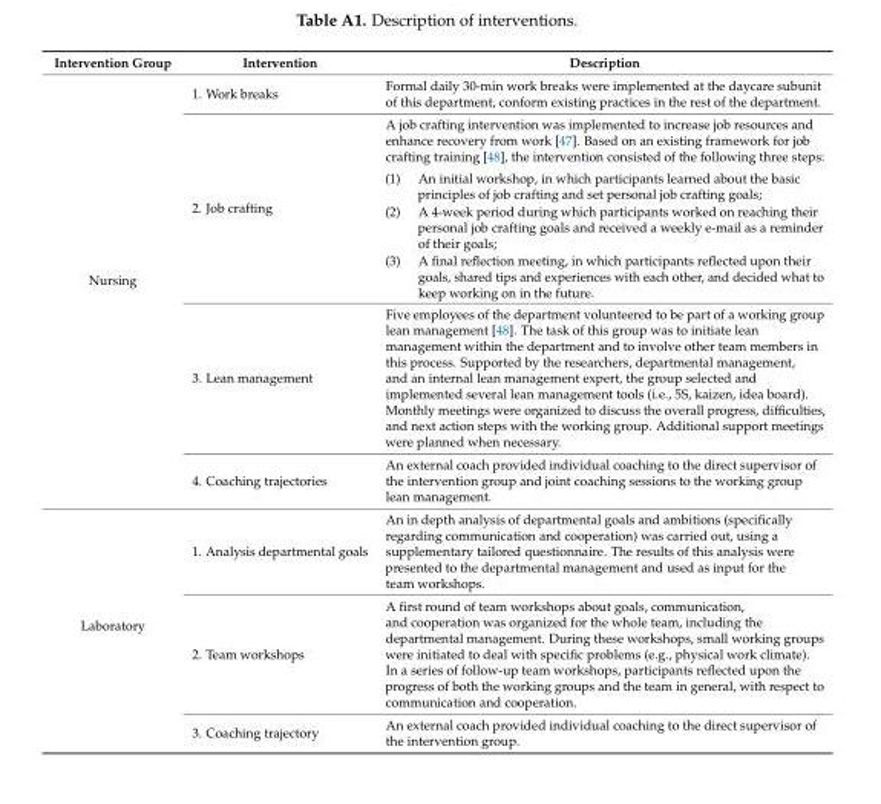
<table><thead><tr><td>Intervention Group</td><td>Intervention</td><td>Description</td></tr></thead><tbody><tr><td rowspan="4">Nursing</td><td>1. Work breaks</td><td>Formal daily 30-min work breaks were implemented at the daycare subunit of this department, conform existing practices in the rest of the department.</td></tr><tr><td>2. Job crafting</td><td>A job crafting intervention was implemented to increase job resources and enhance recovery from work [47]. Based on an existing framework for job crafting training [48], the intervention consisted of the following three steps: (1) An initial workshop, in which participants learned about the basic principles of job crafting and set personal job crafting goals; (2) A 4-week period during which participants worked on reaching their personal job crafting goals and received a weekly e-mail as a reminder of their goals; (3) A final reflection meeting, in which participants reflected upon their goals, shared tips and experiences with each other, and decided what to keep working on in the future.</td></tr><tr><td>3. Lean management</td><td>Five employees of the department volunteered to be part of a working group lean management [48]. The task of this group was to initiate lean management within the department and to involve other team members in this process. Supported by the researchers, departmental management, and an internal lean management expert, the group selected and implemented several lean management tools (i.e., 5S, kaizen, idea board). Monthly meetings were organized to discuss the overall progress, difficulties, and next action steps with the working group. Additional support meetings were planned when necessary.</td></tr><tr><td>4. Coaching trajectories</td><td>An external coach provided individual coaching to the direct supervisor of the intervention group and joint coaching sessions to the working group lean management.</td></tr><tr><td rowspan="3">Laboratory</td><td>1. Analysis departmental goals</td><td>An in depth analysis of departmental goals and ambitions (specifically regarding communication and cooperation) was carried out, using a supplementary tailored questionnaire. The results of this analysis were presented to the departmental management and used as input for the team workshops.</td></tr><tr><td>2. Team workshops</td><td>A first round of team workshops about goals, communication, and cooperation was organized for the whole team, including the departmental management. During these workshops, small working groups were initiated to deal with specific problems (e.g., physical work climate). In a series of follow-up team workshops, participants reflected upon the progress of both the working groups and the team in general, with respect to communication and cooperation.</td></tr><tr><td>3. Coaching trajectory</td><td>An external coach provided individual coaching to the direct supervisor of the intervention group.</td></tr></tbody></table>